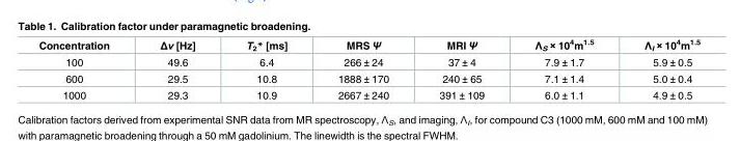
<table><thead><tr><td>Concentration</td><td>Δν [Hz]</td><td>T<sub>2</sub>* [ms]</td><td>MRS Ψ</td><td>MRI Ψ</td><td>Λ<sub>S</sub> × 10<sup>4</sup>m<sup>1.5</sup></td><td>Λ<sub>I</sub> × 10<sup>4</sup>m<sup>1.5</sup></td></tr></thead><tbody><tr><td>100</td><td>49.6</td><td>6.4</td><td>266 ± 24</td><td>37 ± 4</td><td>7.9 ± 1.7</td><td>5.9 ± 0.5</td></tr><tr><td>600</td><td>29.5</td><td>10.8</td><td>1888 ± 170</td><td>240 ± 65</td><td>7.1 ± 1.4</td><td>5.0 ± 0.4</td></tr><tr><td>1000</td><td>29.3</td><td>10.9</td><td>2667 ± 240</td><td>391 ± 109</td><td>6.0 ± 1.1</td><td>4.9 ± 0.5</td></tr></tbody></table>